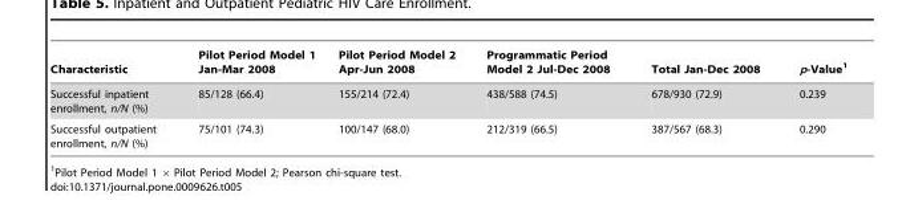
<table><thead><tr><td>Characteristic</td><td>Pilot Period Model 1 Jan-Mar 2008</td><td>Pilot Period Model 2 Apr-Jun 2008</td><td>Programmatic Period Model 2 Jul-Dec 2008</td><td>Total Jan-Dec 2008</td><td>p-Value<sup>1</sup></td></tr></thead><tbody><tr><td>Successful inpatient enrollment, n/N (%)</td><td>85/128 (66.4)</td><td>155/214 (72.4)</td><td>438/588 (74.5)</td><td>678/930 (72.9)</td><td>0.239</td></tr><tr><td>Successful outpatient enrollment, n/N (%)</td><td>75/101 (74.3)</td><td>100/147 (68.0)</td><td>212/319 (66.5)</td><td>387/567 (68.3)</td><td>0.290</td></tr></tbody></table>